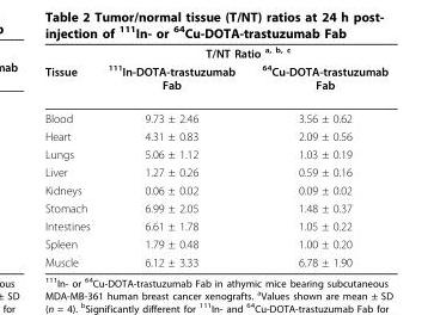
<table><thead><tr><td rowspan="2">Tissue</td><td colspan="2">T/NT Ratio <sup>a, b, c</sup></td></tr><tr><td><sup>111</sup>In-DOTA-trastuzumab Fab</td><td><sup>64</sup>Cu-DOTA-trastuzumab Fab</td></tr></thead><tbody><tr><td>Blood</td><td>9.73 ± 2.46</td><td>3.56 ± 0.62</td></tr><tr><td>Heart</td><td>4.31 ± 0.83</td><td>2.09 ± 0.56</td></tr><tr><td>Lungs</td><td>5.06 ± 1.12</td><td>1.03 ± 0.19</td></tr><tr><td>Liver</td><td>1.27 ± 0.26</td><td>0.59 ± 0.16</td></tr><tr><td>Kidneys</td><td>0.06 ± 0.02</td><td>0.09 ± 0.02</td></tr><tr><td>Stomach</td><td>6.99 ± 2.05</td><td>1.48 ± 0.37</td></tr><tr><td>Intestines</td><td>6.61 ± 1.78</td><td>1.05 ± 0.22</td></tr><tr><td>Spleen</td><td>1.79 ± 0.48</td><td>1.00 ± 0.20</td></tr><tr><td>Muscle</td><td>6.12 ± 3.33</td><td>6.78 ± 1.90</td></tr></tbody></table>